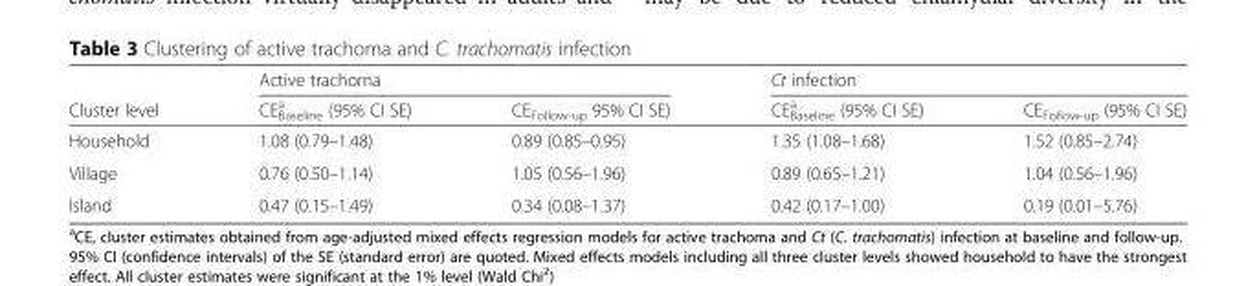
<table><thead><tr><td rowspan="2">Cluster level</td><td colspan="2">Active trachoma</td><td colspan="2">Ct infection</td></tr><tr><td>CE<sub>Baseline</sub> <sup>a</sup> (95% CI SE)</td><td>CE<sub>Follow-up</sub> 95% CI SE)</td><td>CE<sub>Baseline</sub> <sup>a</sup> (95% CI SE)</td><td>CE<sub>Follow-up</sub> (95% CI SE)</td></tr></thead><tbody><tr><td>Household</td><td>1.08 (0.79–1.48)</td><td>0.89 (0.85–0.95)</td><td>1.35 (1.08–1.68)</td><td>1.52 (0.85–2.74)</td></tr><tr><td>Village</td><td>0.76 (0.50–1.14)</td><td>1.05 (0.56–1.96)</td><td>0.89 (0.65–1.21)</td><td>1.04 (0.56–1.96)</td></tr><tr><td>Island</td><td>0.47 (0.15–1.49)</td><td>0.34 (0.08–1.37)</td><td>0.42 (0.17–1.00)</td><td>0.19 (0.01–5.76)</td></tr></tbody></table>